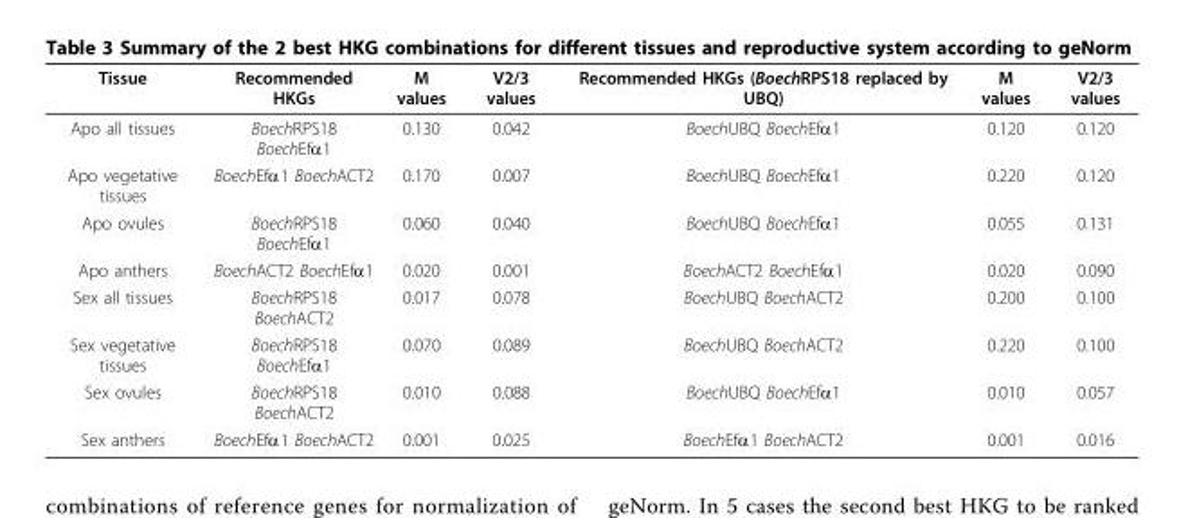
<table><thead><tr><td>Tissue</td><td>Recommended HKGs</td><td>M values</td><td>V2/3 values</td><td>Recommended HKGs (BoechRPS18 replaced by UBQ)</td><td>M values</td><td>V2/3 values</td></tr></thead><tbody><tr><td>Apo all tissues</td><td>BoechRPS18 BoechEfα1</td><td>0.130</td><td>0.042</td><td>BoechUBQ BoechEfα1</td><td>0.120</td><td>0.120</td></tr><tr><td>Apo vegetative tissues</td><td>BoechEfα1 BoechACT2</td><td>0.170</td><td>0.007</td><td>BoechUBQ BoechEfα1</td><td>0.220</td><td>0.120</td></tr><tr><td>Apo ovules</td><td>BoechRPS18 BoechEfα1</td><td>0.060</td><td>0.040</td><td>BoechUBQ BoechEfα1</td><td>0.055</td><td>0.131</td></tr><tr><td>Apo anthers</td><td>BoechACT2 BoechEfα1</td><td>0.020</td><td>0.001</td><td>BoechACT2 BoechEfα1</td><td>0.020</td><td>0.090</td></tr><tr><td>Sex all tissues</td><td>BoechRPS18 BoechACT2</td><td>0.017</td><td>0.078</td><td>BoechUBQ BoechACT2</td><td>0.200</td><td>0.100</td></tr><tr><td>Sex vegetative tissues</td><td>BoechRPS18 BoechEfα1</td><td>0.070</td><td>0.089</td><td>BoechUBQ BoechACT2</td><td>0.220</td><td>0.100</td></tr><tr><td>Sex ovules</td><td>BoechRPS18 BoechACT2</td><td>0.010</td><td>0.088</td><td>BoechUBQ BoechEfα1</td><td>0.010</td><td>0.057</td></tr><tr><td>Sex anthers</td><td>BoechEfα1 BoechACT2</td><td>0.001</td><td>0.025</td><td>BoechEfα1 BoechACT2</td><td>0.001</td><td>0.016</td></tr></tbody></table>